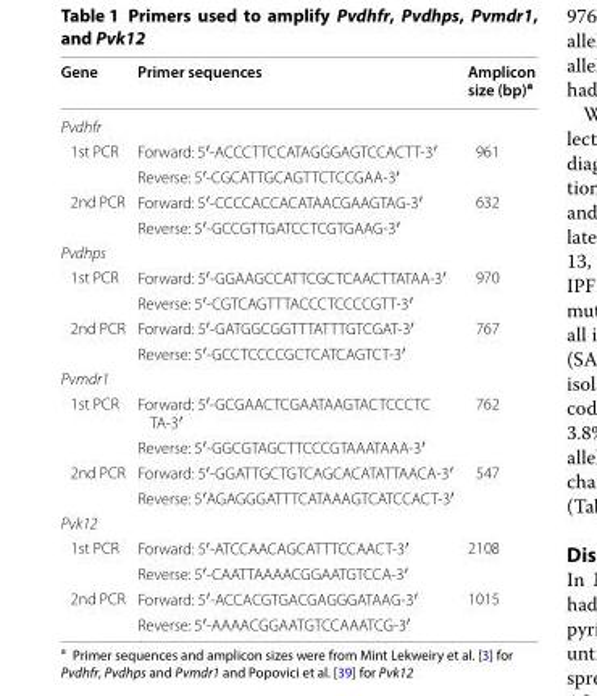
<table><thead><tr><td>Gene</td><td>Primer sequences</td><td>Amplicon size (bp)<sup>a</sup></td></tr></thead><tbody><tr><td colspan="3">Pvdhfr</td></tr><tr><td rowspan="2">1st PCR</td><td>Forward: 5′-ACC CTT CCA TAG GGA GTC CACTT-3′</td><td>961</td></tr><tr><td>Reverse: 5′-CGC ATT GCA GTT CTC CGA A-3′</td><td></td></tr><tr><td rowspan="2">2nd PCR</td><td>Forward: 5′-CCC CAC CAC ATA ACG AAG TAG-3′</td><td>632</td></tr><tr><td>Reverse: 5′-GCC GTT GAT CCT CGT GAA G-3′</td><td></td></tr><tr><td colspan="3">Pvdhps</td></tr><tr><td rowspan="2">1st PCR</td><td>Forward: 5′-GGA AGC CAT TCG CTC AAC TTA TAA -3′</td><td>970</td></tr><tr><td>Reverse: 5′-CGT CAG TTT ACC CTC CCC GTT-3′</td><td></td></tr><tr><td rowspan="2">2nd PCR</td><td>Forward: 5′-GAT GGC GGT TTA TTT GTC GAT-3′</td><td>767</td></tr><tr><td>Reverse: 5′-GCC TCC CCG CTC ATC AGT CT-3′</td><td></td></tr><tr><td colspan="3">Pvmdr1</td></tr><tr><td rowspan="2">1st PCR</td><td>Forward: 5′-GCG AAC TCG AAT AAG TAC TCC CTC TA-3′</td><td>762</td></tr><tr><td>Reverse: 5′-GGC GTA GCT TCC CGT AAA TAAA-3′</td><td></td></tr><tr><td rowspan="2">2nd PCR</td><td>Forward: 5′-GGA TTG CTG TCA GCA CAT ATT AAC A-3′</td><td>547</td></tr><tr><td>Reverse: 5′AGA GGG ATT TCA TAA AGT CAT CCA CT-3′</td><td></td></tr><tr><td colspan="3">Pvk12</td></tr><tr><td rowspan="2">1st PCR</td><td>Forward: 5′-ATC CAA CAG CAT TTC CAA CT-3′</td><td>2108</td></tr><tr><td>Reverse: 5′-CAA TTA AAA CGG AAT GTC CA-3′</td><td></td></tr><tr><td rowspan="2">2nd PCR</td><td>Forward: 5′-ACC ACG TGA CGA GGG ATA AG-3′</td><td>1015</td></tr><tr><td>Reverse: 5′-AAA ACG GAA TGT CCA AAT CG-3′</td><td></td></tr></tbody></table>